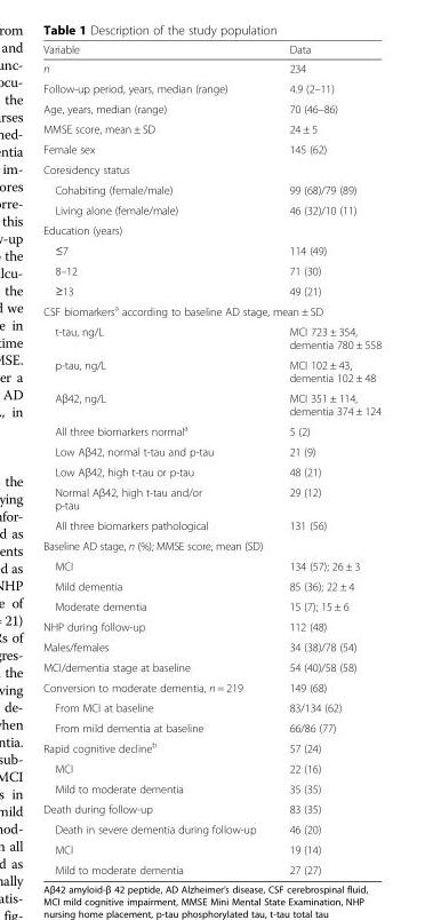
<table><thead><tr><td>Variable</td><td>Data</td></tr></thead><tbody><tr><td>n</td><td>234</td></tr><tr><td>Follow-up period, years, median (range)</td><td>4.9 (2–11)</td></tr><tr><td>Age, years, median (range)</td><td>70 (46–86)</td></tr><tr><td>MMSE score, mean ± SD</td><td>24 ± 5</td></tr><tr><td>Female sex</td><td>145 (62)</td></tr><tr><td colspan="2">Coresidency status</td></tr><tr><td>Cohabiting (female/male)</td><td>99 (68)/79 (89)</td></tr><tr><td>Living alone (female/male)</td><td>46 (32)/10 (11)</td></tr><tr><td colspan="2">Education (years)</td></tr><tr><td>≤7</td><td>114 (49)</td></tr><tr><td>8–12</td><td>71 (30)</td></tr><tr><td>≥13</td><td>49 (21)</td></tr><tr><td colspan="2">CSF biomarkers<sup>a</sup> according to baseline AD stage, mean ± SD</td></tr><tr><td>t-tau, ng/L</td><td>MCI 723 ± 354, dementia 780 ± 558</td></tr><tr><td>p-tau, ng/L</td><td>MCI 102 ± 43, dementia 102 ± 48</td></tr><tr><td>Aβ42, ng/L</td><td>MCI 351 ± 114, dementia 374 ± 124</td></tr><tr><td>All three biomarkers normal<sup>a</sup></td><td>5 (2)</td></tr><tr><td>Low Aβ42, normal t-tau and p-tau</td><td>21 (9)</td></tr><tr><td>Low Aβ42, high t-tau or p-tau</td><td>48 (21)</td></tr><tr><td>Normal Aβ42, high t-tau and/or p-tau</td><td>29 (12)</td></tr><tr><td>All three biomarkers pathological</td><td>131 (56)</td></tr><tr><td colspan="2">Baseline AD stage, n (%); MMSE score, mean (SD)</td></tr><tr><td>MCI</td><td>134 (57); 26 ± 3</td></tr><tr><td>Mild dementia</td><td>85 (36); 22 ± 4</td></tr><tr><td>Moderate dementia</td><td>15 (7); 15 ± 6</td></tr><tr><td>NHP during follow-up</td><td>112 (48)</td></tr><tr><td>Males/females</td><td>34 (38)/78 (54)</td></tr><tr><td>MCI/dementia stage at baseline</td><td>54 (40)/58 (58)</td></tr><tr><td>Conversion to moderate dementia, n = 219</td><td>149 (68)</td></tr><tr><td>From MCI at baseline</td><td>83/134 (62)</td></tr><tr><td>From mild dementia at baseline</td><td>66/86 (77)</td></tr><tr><td>Rapid cognitive decline<sup>b</sup></td><td>57 (24)</td></tr><tr><td>MCI</td><td>22 (16)</td></tr><tr><td>Mild to moderate dementia</td><td>35 (35)</td></tr><tr><td>Death during follow-up</td><td>83 (35)</td></tr><tr><td>Death in severe dementia during follow-up</td><td>46 (20)</td></tr><tr><td>MCI</td><td>19 (14)</td></tr><tr><td>Mild to moderate dementia</td><td>27 (27)</td></tr></tbody></table>